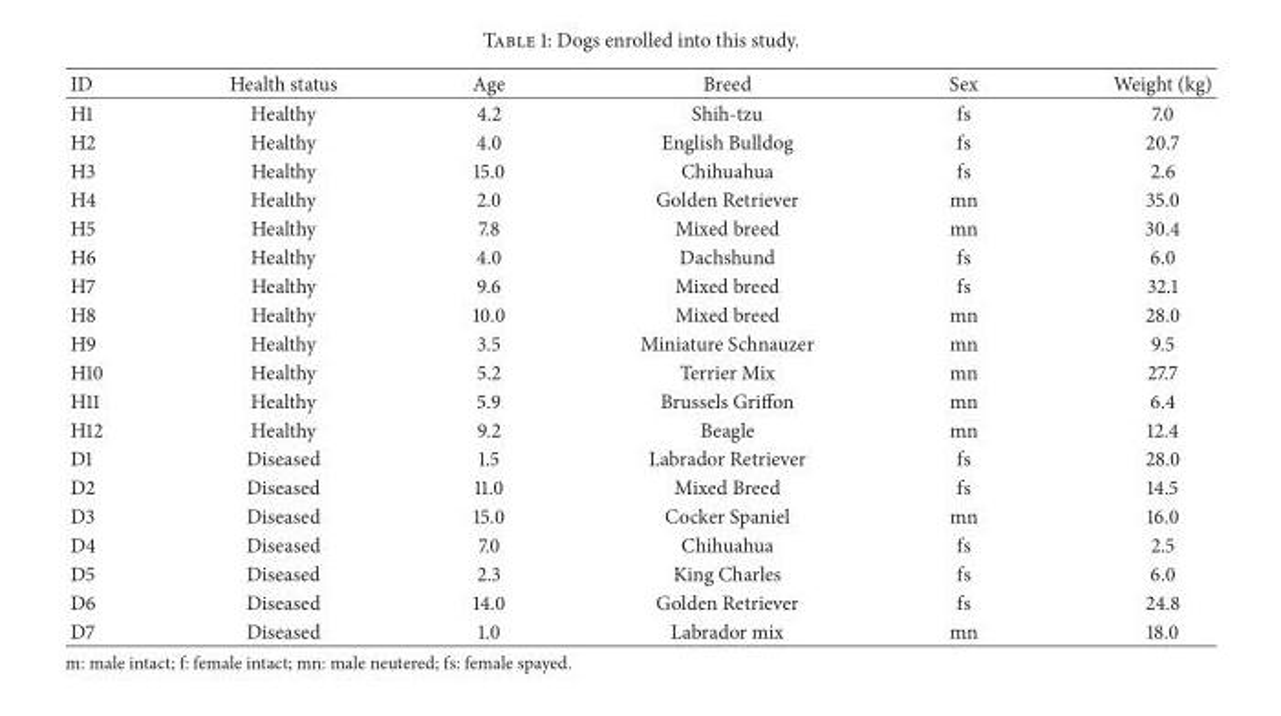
<table><thead><tr><td>ID</td><td>Health status</td><td>Age</td><td>Breed</td><td>Sex</td><td>Weight (kg)</td></tr></thead><tbody><tr><td>H1</td><td>Healthy</td><td>4.2</td><td>Shih-tzu</td><td>fs</td><td>7.0</td></tr><tr><td>H2</td><td>Healthy</td><td>4.0</td><td>English Bulldog</td><td>fs</td><td>20.7</td></tr><tr><td>H3</td><td>Healthy</td><td>15.0</td><td>Chihuahua</td><td>fs</td><td>2.6</td></tr><tr><td>H4</td><td>Healthy</td><td>2.0</td><td>Golden Retriever</td><td>mn</td><td>35.0</td></tr><tr><td>H5</td><td>Healthy</td><td>7.8</td><td>Mixed breed</td><td>mn</td><td>30.4</td></tr><tr><td>H6</td><td>Healthy</td><td>4.0</td><td>Dachshund</td><td>fs</td><td>6.0</td></tr><tr><td>H7</td><td>Healthy</td><td>9.6</td><td>Mixed breed</td><td>fs</td><td>32.1</td></tr><tr><td>H8</td><td>Healthy</td><td>10.0</td><td>Mixed breed</td><td>mn</td><td>28.0</td></tr><tr><td>H9</td><td>Healthy</td><td>3.5</td><td>Miniature Schnauzer</td><td>mn</td><td>9.5</td></tr><tr><td>H10</td><td>Healthy</td><td>5.2</td><td>Terrier Mix</td><td>mn</td><td>27.7</td></tr><tr><td>H11</td><td>Healthy</td><td>5.9</td><td>Brussels Griffon</td><td>mn</td><td>6.4</td></tr><tr><td>H12</td><td>Healthy</td><td>9.2</td><td>Beagle</td><td>mn</td><td>12.4</td></tr><tr><td>D1</td><td>Diseased</td><td>1.5</td><td>Labrador Retriever</td><td>fs</td><td>28.0</td></tr><tr><td>D2</td><td>Diseased</td><td>11.0</td><td>Mixed Breed</td><td>fs</td><td>14.5</td></tr><tr><td>D3</td><td>Diseased</td><td>15.0</td><td>Cocker Spaniel</td><td>mn</td><td>16.0</td></tr><tr><td>D4</td><td>Diseased</td><td>7.0</td><td>Chihuahua</td><td>fs</td><td>2.5</td></tr><tr><td>D5</td><td>Diseased</td><td>2.3</td><td>King Charles</td><td>fs</td><td>6.0</td></tr><tr><td>D6</td><td>Diseased</td><td>14.0</td><td>Golden Retriever</td><td>fs</td><td>24.8</td></tr><tr><td>D7</td><td>Diseased</td><td>1.0</td><td>Labrador mix</td><td>mn</td><td>18.0</td></tr></tbody></table>